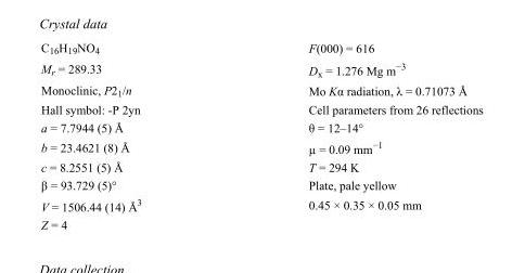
<table><tbody><tr><td>C<sub>16</sub>H<sub>19</sub>NO<sub>4</sub></td><td>F(000) = 616</td></tr><tr><td>M<sub>r</sub> = 289.33</td><td>D<sub>x</sub> = 1.276 Mg m<sup>−3</sup></td></tr><tr><td>Monoclinic, P2<sub>1</sub>/n</td><td>Mo Kα radiation, λ = 0.71073 Å</td></tr><tr><td>Hall symbol: -P 2yn</td><td>Cell parameters from 26 reflections</td></tr><tr><td>a = 7.7944 (5) Å</td><td>θ = 12–14°</td></tr><tr><td>b = 23.4621 (8) Å</td><td>µ = 0.09 mm<sup>−1</sup></td></tr><tr><td>c = 8.2551 (5) Å</td><td>T = 294 K</td></tr><tr><td>β = 93.729 (5)°</td><td>Plate, pale yellow</td></tr><tr><td>V = 1506.44 (14) Å<sup>3</sup></td><td>0.45 × 0.35 × 0.05 mm</td></tr><tr><td>Z = 4</td><td></td></tr></tbody></table>